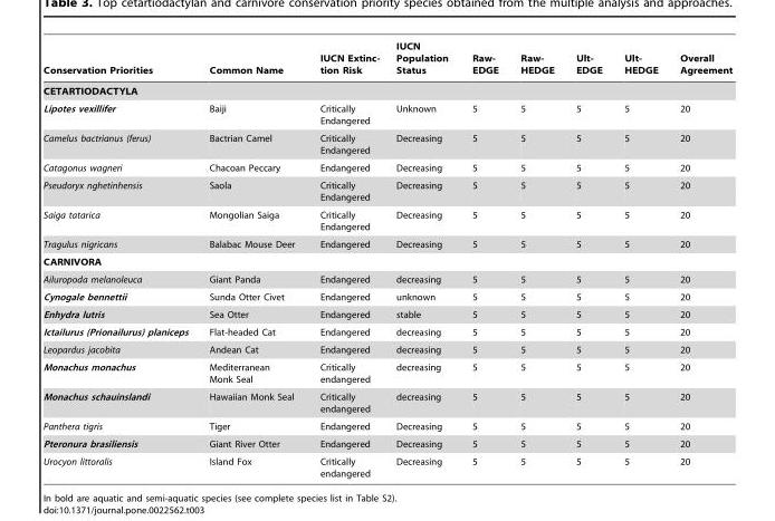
<table><thead><tr><td>Conservation Priorities</td><td>Common Name</td><td>IUCN Extinc- tion Risk</td><td>IUCN Population Status</td><td>Raw- EDGE</td><td>Raw- HEDGE</td><td>Ult- EDGE</td><td>Ult- HEDGE</td><td>Overall Agreement</td></tr></thead><tbody><tr><td colspan="9">CETARTIODACTYLA</td></tr><tr><td>Lipotes vexillifer</td><td>Baiji</td><td>Critically Endangered</td><td>Unknown</td><td>5</td><td>5</td><td>5</td><td>5</td><td>20</td></tr><tr><td>Camelus bactrianus (ferus)</td><td>Bactrian Camel</td><td>Critically Endangered</td><td>Decreasing</td><td>5</td><td>5</td><td>5</td><td>5</td><td>20</td></tr><tr><td>Catagonus wagneri</td><td>Chacoan Peccary</td><td>Endangered</td><td>Decreasing</td><td>5</td><td>5</td><td>5</td><td>5</td><td>20</td></tr><tr><td>Pseudoryx nghetinhensis</td><td>Saola</td><td>Critically Endangered</td><td>Decreasing</td><td>5</td><td>5</td><td>5</td><td>5</td><td>20</td></tr><tr><td>Saiga tatarica</td><td>Mongolian Saiga</td><td>Critically Endangered</td><td>Decreasing</td><td>5</td><td>5</td><td>5</td><td>5</td><td>20</td></tr><tr><td>Tragulus nigricans</td><td>Balabac Mouse Deer</td><td>Endangered</td><td>Decreasing</td><td>5</td><td>5</td><td>5</td><td>5</td><td>20</td></tr><tr><td colspan="9">CARNIVORA</td></tr><tr><td>Ailuropoda melanoleuca</td><td>Giant Panda</td><td>Endangered</td><td>decreasing</td><td>5</td><td>5</td><td>5</td><td>5</td><td>20</td></tr><tr><td>Cynogale bennettii</td><td>Sunda Otter Civet</td><td>Endangered</td><td>unknown</td><td>5</td><td>5</td><td>5</td><td>5</td><td>20</td></tr><tr><td>Enhydra lutris</td><td>Sea Otter</td><td>Endangered</td><td>stable</td><td>5</td><td>5</td><td>5</td><td>5</td><td>20</td></tr><tr><td>Ictailurus (Prionailurus) planiceps</td><td>Flat-headed Cat</td><td>Endangered</td><td>decreasing</td><td>5</td><td>5</td><td>5</td><td>5</td><td>20</td></tr><tr><td>Leopardus jacobita</td><td>Andean Cat</td><td>Endangered</td><td>decreasing</td><td>5</td><td>5</td><td>5</td><td>5</td><td>20</td></tr><tr><td>Monachus monachus</td><td>Mediterranean Monk Seal</td><td>Critically endangered</td><td>decreasing</td><td>5</td><td>5</td><td>5</td><td>5</td><td>20</td></tr><tr><td>Monachus schauinslandi</td><td>Hawaiian Monk Seal</td><td>Critically endangered</td><td>decreasing</td><td>5</td><td>5</td><td>5</td><td>5</td><td>20</td></tr><tr><td>Panthera tigris</td><td>Tiger</td><td>Endangered</td><td>Decreasing</td><td>5</td><td>5</td><td>5</td><td>5</td><td>20</td></tr><tr><td>Pteronura brasiliensis</td><td>Giant River Otter</td><td>Endangered</td><td>Decreasing</td><td>5</td><td>5</td><td>5</td><td>5</td><td>20</td></tr><tr><td>Urocyon littoralis</td><td>Island Fox</td><td>Critically endangered</td><td>Decreasing</td><td>5</td><td>5</td><td>5</td><td>5</td><td>20</td></tr></tbody></table>